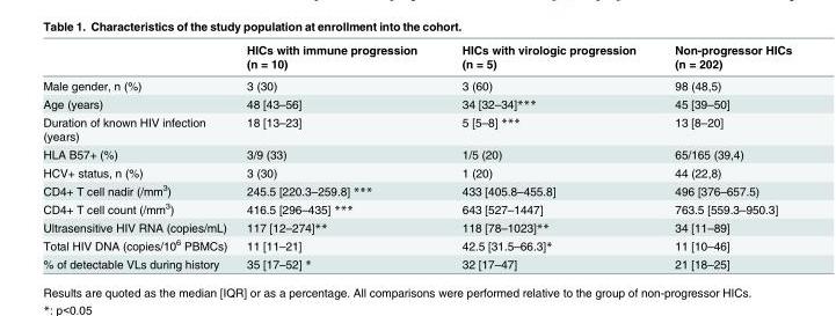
<table><thead><tr><td></td><td>HICs with immune progression (n = 10)</td><td>HICs with virologic progression (n = 5)</td><td>Non-progressor HICs (n = 202)</td></tr></thead><tbody><tr><td>Male gender, n (%)</td><td>3 (30)</td><td>3 (60)</td><td>98 (48,5)</td></tr><tr><td>Age (years)</td><td>48 [43–56]</td><td>34 [32–34]***</td><td>45 [39–50]</td></tr><tr><td>Duration of known HIV infection (years)</td><td>18 [13–23]</td><td>5 [5–8] ***</td><td>13 [8–20]</td></tr><tr><td>HLA B57+ (%)</td><td>3/9 (33)</td><td>1/5 (20)</td><td>65/165 (39,4)</td></tr><tr><td>HCV+ status, n (%)</td><td>3 (30)</td><td>1 (20)</td><td>44 (22,8)</td></tr><tr><td>CD4+ T cell nadir (/mm<sup>3</sup>)</td><td>245.5 [220.3–259.8] ***</td><td>433 [405.8–455.8]</td><td>496 [376–657.5)</td></tr><tr><td>CD4+ T cell count (/mm<sup>3</sup>)</td><td>416.5 [296–435] ***</td><td>643 [527–1447]</td><td>763.5 [559.3–950.3]</td></tr><tr><td>Ultrasensitive HIV RNA (copies/mL)</td><td>117 [12–274]**</td><td>118 [78–1023]**</td><td>34 [11–89]</td></tr><tr><td>Total HIV DNA (copies/10<sup>6</sup> PBMCs)</td><td>11 [11–21]</td><td>42.5 [31.5–66.3]*</td><td>11 [10–46]</td></tr><tr><td>% of detectable VLs during history</td><td>35 [17–52] *</td><td>32 [17–47]</td><td>21 [18–25]</td></tr></tbody></table>